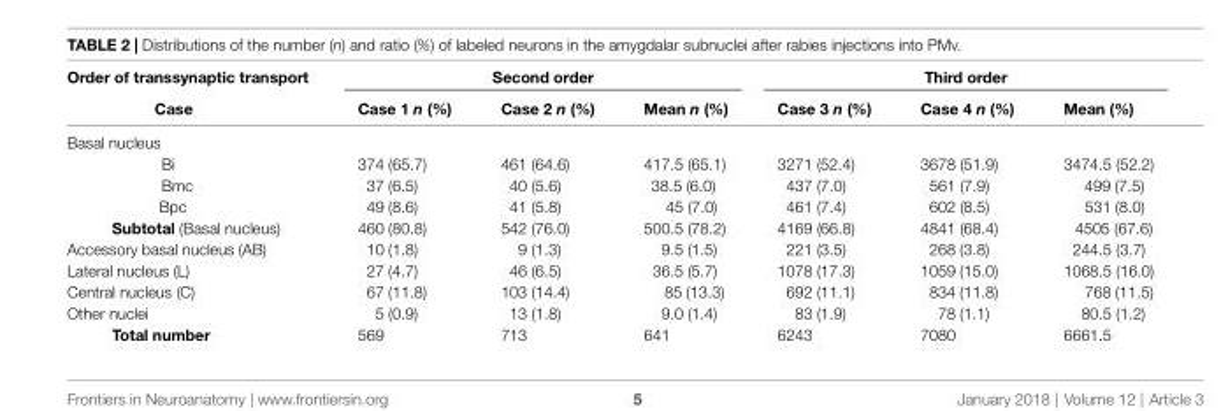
<table><thead><tr><td rowspan="2">Order of transsynaptic transport Case</td><td colspan="3">Second order</td><td colspan="3">Third order</td></tr><tr><td>Case 1 n (%)</td><td>Case 2 n (%)</td><td>Mean n (%)</td><td>Case 3 n (%)</td><td>Case 4 n (%)</td><td>Mean (%)</td></tr></thead><tbody><tr><td colspan="7">Basal nucleus</td></tr><tr><td>Bi</td><td>374 (65.7)</td><td>461 (64.6)</td><td>417.5 (65.1)</td><td>3271 (52.4)</td><td>3678 (51.9)</td><td>3474.5 (52.2)</td></tr><tr><td>Bmc</td><td>37 (6.5)</td><td>40 (5.6)</td><td>38.5 (6.0)</td><td>437 (7.0)</td><td>561 (7.9)</td><td>499 (7.5)</td></tr><tr><td>Bpc</td><td>49 (8.6)</td><td>41 (5.8)</td><td>45 (7.0)</td><td>461 (7.4)</td><td>602 (8.5)</td><td>531 (8.0)</td></tr><tr><td>Subtotal (Basal nucleus)</td><td>460 (80.8)</td><td>542 (76.0)</td><td>500.5 (78.2)</td><td>4169 (66.8)</td><td>4841 (68.4)</td><td>4505 (67.6)</td></tr><tr><td>Accessory basal nucleus (AB)</td><td>10 (1.8)</td><td>9 (1.3)</td><td>9.5 (1.5)</td><td>221 (3.5)</td><td>268 (3.8)</td><td>244.5 (3.7)</td></tr><tr><td>Lateral nucleus (L)</td><td>27 (4.7)</td><td>46 (6.5)</td><td>36.5 (5.7)</td><td>1078 (17.3)</td><td>1059 (15.0)</td><td>1068.5 (16.0)</td></tr><tr><td>Central nucleus (C)</td><td>67 (11.8)</td><td>103 (14.4)</td><td>85 (13.3)</td><td>692 (11.1)</td><td>834 (11.8)</td><td>768 (11.5)</td></tr><tr><td>Other nuclei</td><td>5 (0.9)</td><td>13 (1.8)</td><td>9.0 (1.4)</td><td>83 (1.9)</td><td>78 (1.1)</td><td>80.5 (1.2)</td></tr><tr><td>Total number</td><td>569</td><td>713</td><td>641</td><td>6243</td><td>7080</td><td>6661.5</td></tr></tbody></table>